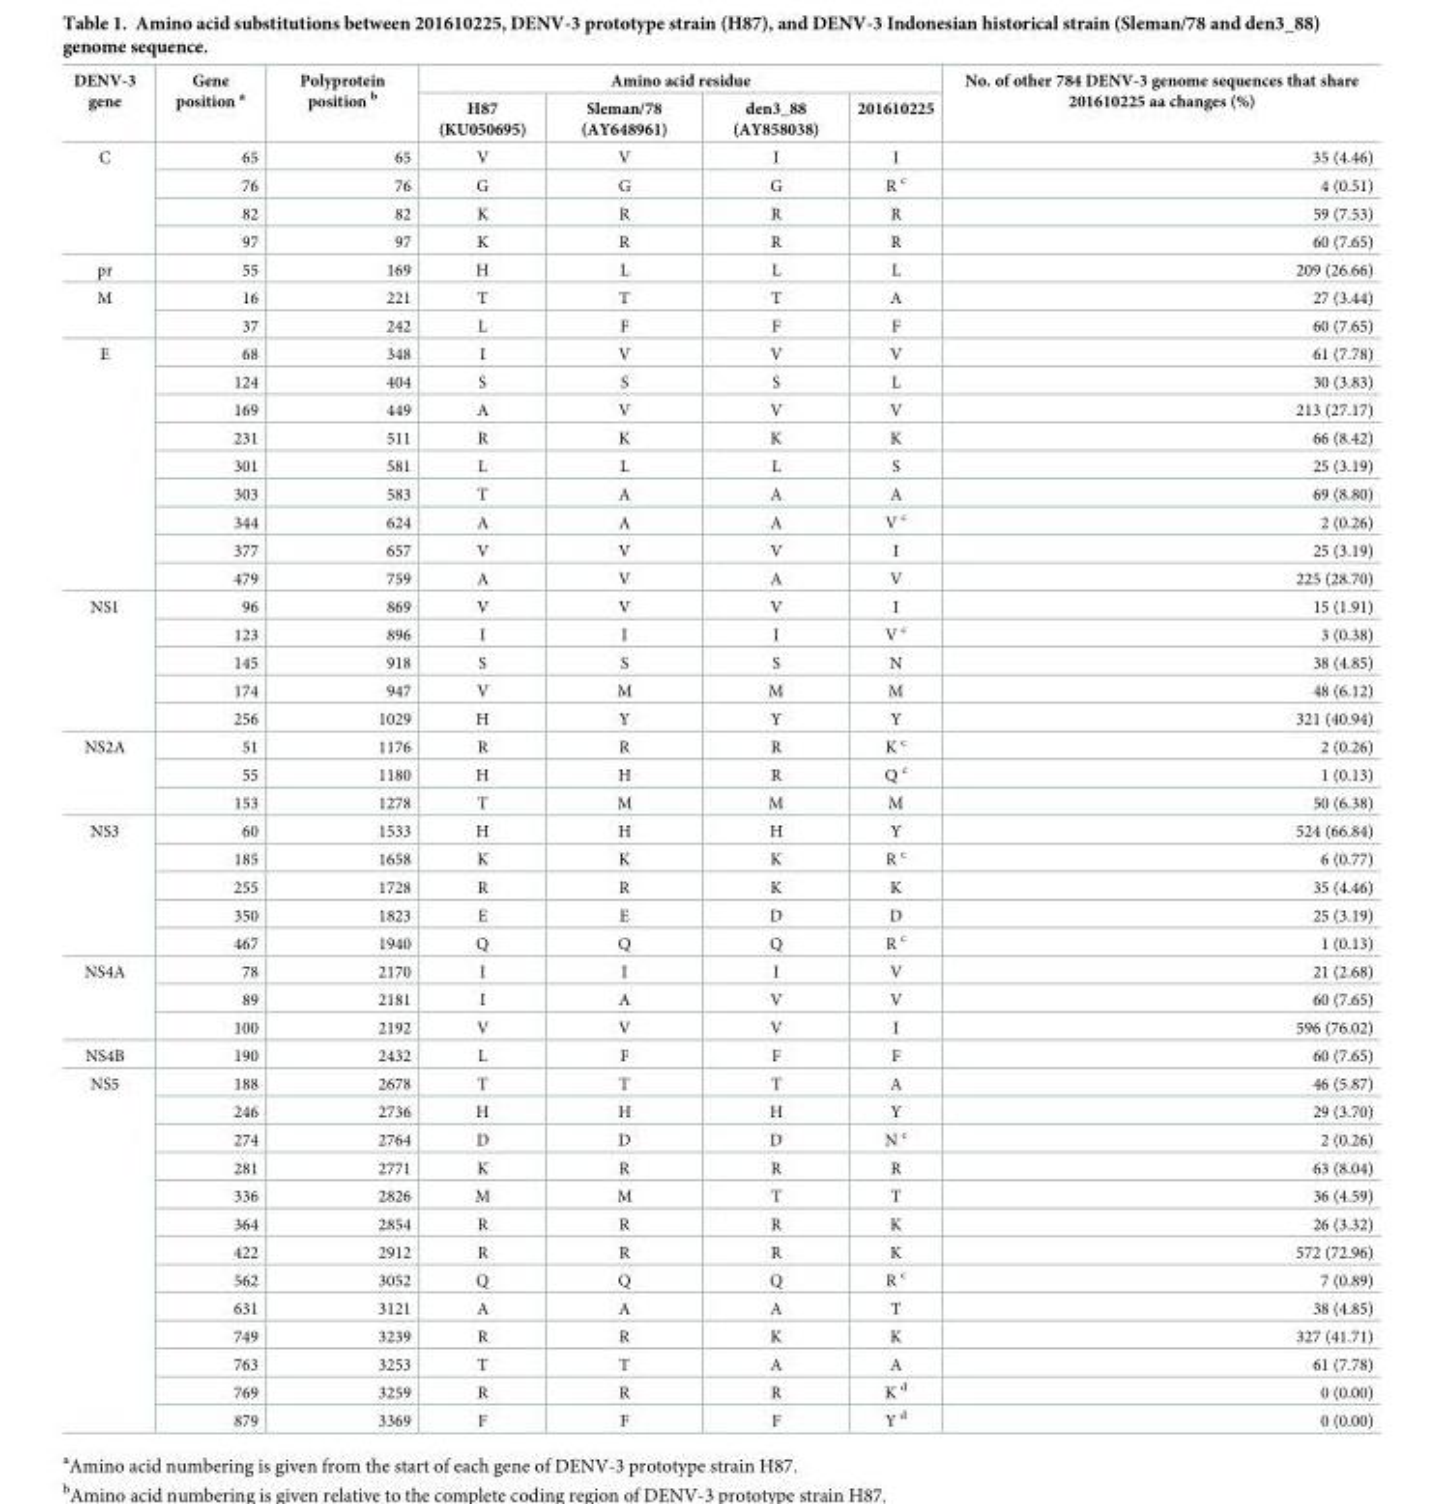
<table><thead><tr><td rowspan="2">DENV-3 gene</td><td rowspan="2">Gene position <sup>a</sup></td><td rowspan="2">Polyprotein position <sup>b</sup></td><td colspan="4">Amino acid residue</td><td rowspan="2">No. of other 784 DENV-3 genome sequences that share 201610225 aa changes (%)</td></tr><tr><td>H87 (KU050695)</td><td>Sleman/78 (AY648961)</td><td>den3_88 (AY858038)</td><td>201610225</td></tr></thead><tbody><tr><td rowspan="4">C</td><td>65</td><td>65</td><td>V</td><td>V</td><td>I</td><td>I</td><td>35 (4.46)</td></tr><tr><td>76</td><td>76</td><td>G</td><td>G</td><td>G</td><td>R <sup>c</sup></td><td>4 (0.51)</td></tr><tr><td>82</td><td>82</td><td>K</td><td>R</td><td>R</td><td>R</td><td>59 (7.53)</td></tr><tr><td>97</td><td>97</td><td>K</td><td>R</td><td>R</td><td>R</td><td>60 (7.65)</td></tr><tr><td>pr</td><td>55</td><td>169</td><td>H</td><td>L</td><td>L</td><td>L</td><td>209 (26.66)</td></tr><tr><td rowspan="2">M</td><td>16</td><td>221</td><td>T</td><td>T</td><td>T</td><td>A</td><td>27 (3.44)</td></tr><tr><td>37</td><td>242</td><td>L</td><td>F</td><td>F</td><td>F</td><td>60 (7.65)</td></tr><tr><td rowspan="9">E</td><td>68</td><td>348</td><td>I</td><td>V</td><td>V</td><td>V</td><td>61 (7.78)</td></tr><tr><td>124</td><td>404</td><td>S</td><td>S</td><td>S</td><td>L</td><td>30 (3.83)</td></tr><tr><td>169</td><td>449</td><td>A</td><td>V</td><td>V</td><td>V</td><td>213 (27.17)</td></tr><tr><td>231</td><td>511</td><td>R</td><td>K</td><td>K</td><td>K</td><td>66 (8.42)</td></tr><tr><td>301</td><td>581</td><td>L</td><td>L</td><td>L</td><td>S</td><td>25 (3.19)</td></tr><tr><td>303</td><td>583</td><td>T</td><td>A</td><td>A</td><td>A</td><td>69 (8.80)</td></tr><tr><td>344</td><td>624</td><td>A</td><td>A</td><td>A</td><td>V <sup>c</sup></td><td>2 (0.26)</td></tr><tr><td>377</td><td>657</td><td>V</td><td>V</td><td>V</td><td>I</td><td>25 (3.19)</td></tr><tr><td>479</td><td>759</td><td>A</td><td>V</td><td>A</td><td>V</td><td>225 (28.70)</td></tr><tr><td rowspan="5">NS1</td><td>96</td><td>869</td><td>V</td><td>V</td><td>V</td><td>I</td><td>15 (1.91)</td></tr><tr><td>123</td><td>896</td><td>I</td><td>I</td><td>I</td><td>V <sup>c</sup></td><td>3 (0.38)</td></tr><tr><td>145</td><td>918</td><td>S</td><td>S</td><td>S</td><td>N</td><td>38 (4.85)</td></tr><tr><td>174</td><td>947</td><td>V</td><td>M</td><td>M</td><td>M</td><td>48 (6.12)</td></tr><tr><td>256</td><td>1029</td><td>H</td><td>Y</td><td>Y</td><td>Y</td><td>321 (40.94)</td></tr><tr><td rowspan="3">NS2A</td><td>51</td><td>1176</td><td>R</td><td>R</td><td>R</td><td>K <sup>c</sup></td><td>2 (0.26)</td></tr><tr><td>55</td><td>1180</td><td>H</td><td>H</td><td>R</td><td>Q <sup>c</sup></td><td>1 (0.13)</td></tr><tr><td>153</td><td>1278</td><td>T</td><td>M</td><td>M</td><td>M</td><td>50 (6.38)</td></tr><tr><td rowspan="5">NS3</td><td>60</td><td>1533</td><td>H</td><td>H</td><td>H</td><td>Y</td><td>524 (66.84)</td></tr><tr><td>185</td><td>1658</td><td>K</td><td>K</td><td>K</td><td>R <sup>c</sup></td><td>6 (0.77)</td></tr><tr><td>255</td><td>1728</td><td>R</td><td>R</td><td>K</td><td>K</td><td>35 (4.46)</td></tr><tr><td>350</td><td>1823</td><td>E</td><td>E</td><td>D</td><td>D</td><td>25 (3.19)</td></tr><tr><td>467</td><td>1940</td><td>Q</td><td>Q</td><td>Q</td><td>R <sup>c</sup></td><td>1 (0.13)</td></tr><tr><td rowspan="3">NS4A</td><td>78</td><td>2170</td><td>I</td><td>I</td><td>I</td><td>V</td><td>21 (2.68)</td></tr><tr><td>89</td><td>2181</td><td>I</td><td>A</td><td>V</td><td>V</td><td>60 (7.65)</td></tr><tr><td>100</td><td>2192</td><td>V</td><td>V</td><td>V</td><td>I</td><td>596 (76.02)</td></tr><tr><td>NS4B</td><td>190</td><td>2432</td><td>L</td><td>F</td><td>F</td><td>F</td><td>60 (7.65)</td></tr><tr><td rowspan="13">NS5</td><td>188</td><td>2678</td><td>T</td><td>T</td><td>T</td><td>A</td><td>46 (5.87)</td></tr><tr><td>246</td><td>2736</td><td>H</td><td>H</td><td>H</td><td>Y</td><td>29 (3.70)</td></tr><tr><td>274</td><td>2764</td><td>D</td><td>D</td><td>D</td><td>N <sup>c</sup></td><td>2 (0.26)</td></tr><tr><td>281</td><td>2771</td><td>K</td><td>R</td><td>R</td><td>R</td><td>63 (8.04)</td></tr><tr><td>336</td><td>2826</td><td>M</td><td>M</td><td>T</td><td>T</td><td>36 (4.59)</td></tr><tr><td>364</td><td>2854</td><td>R</td><td>R</td><td>R</td><td>K</td><td>26 (3.32)</td></tr><tr><td>422</td><td>2912</td><td>R</td><td>R</td><td>R</td><td>K</td><td>572 (72.96)</td></tr><tr><td>562</td><td>3052</td><td>Q</td><td>Q</td><td>Q</td><td>R <sup>c</sup></td><td>7 (0.89)</td></tr><tr><td>631</td><td>3121</td><td>A</td><td>A</td><td>A</td><td>T</td><td>38 (4.85)</td></tr><tr><td>749</td><td>3239</td><td>R</td><td>R</td><td>K</td><td>K</td><td>327 (41.71)</td></tr><tr><td>763</td><td>3253</td><td>T</td><td>T</td><td>A</td><td>A</td><td>61 (7.78)</td></tr><tr><td>769</td><td>3259</td><td>R</td><td>R</td><td>R</td><td>K <sup>d</sup></td><td>0 (0.00)</td></tr><tr><td>879</td><td>3369</td><td>F</td><td>F</td><td>F</td><td>Y <sup>d</sup></td><td>0 (0.00)</td></tr></tbody></table>